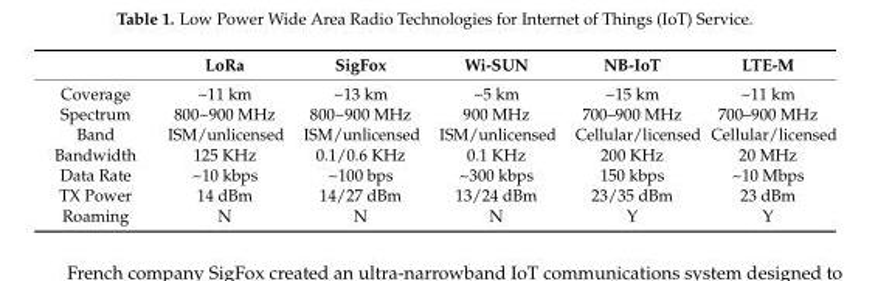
<table><thead><tr><td></td><td>LoRa</td><td>SigFox</td><td>Wi-SUN</td><td>NB-IoT</td><td>LTE-M</td></tr></thead><tbody><tr><td>Coverage</td><td>~11 km</td><td>~13 km</td><td>~5 km</td><td>~15 km</td><td>~11 km</td></tr><tr><td>Spectrum</td><td>800~900 MHz</td><td>800~900 MHz</td><td>900 MHz</td><td>700–900 MHz</td><td>700–900 MHz</td></tr><tr><td>Band</td><td>ISM/unlicensed</td><td>ISM/unlicensed</td><td>ISM/unlicensed</td><td>Cellular/licensed</td><td>Cellular/licensed</td></tr><tr><td>Bandwidth</td><td>125 KHz</td><td>0.1/0.6 KHz</td><td>0.1 KHz</td><td>200 KHz</td><td>20 MHz</td></tr><tr><td>Data Rate</td><td>~10 kbps</td><td>~100 bps</td><td>~300 kbps</td><td>150 kbps</td><td>~10 Mbps</td></tr><tr><td>TX Power</td><td>14 dBm</td><td>14/27 dBm</td><td>13/24 dBm</td><td>23/35 dBm</td><td>23 dBm</td></tr><tr><td>Roaming</td><td>N</td><td>N</td><td>N</td><td>Y</td><td>Y</td></tr></tbody></table>